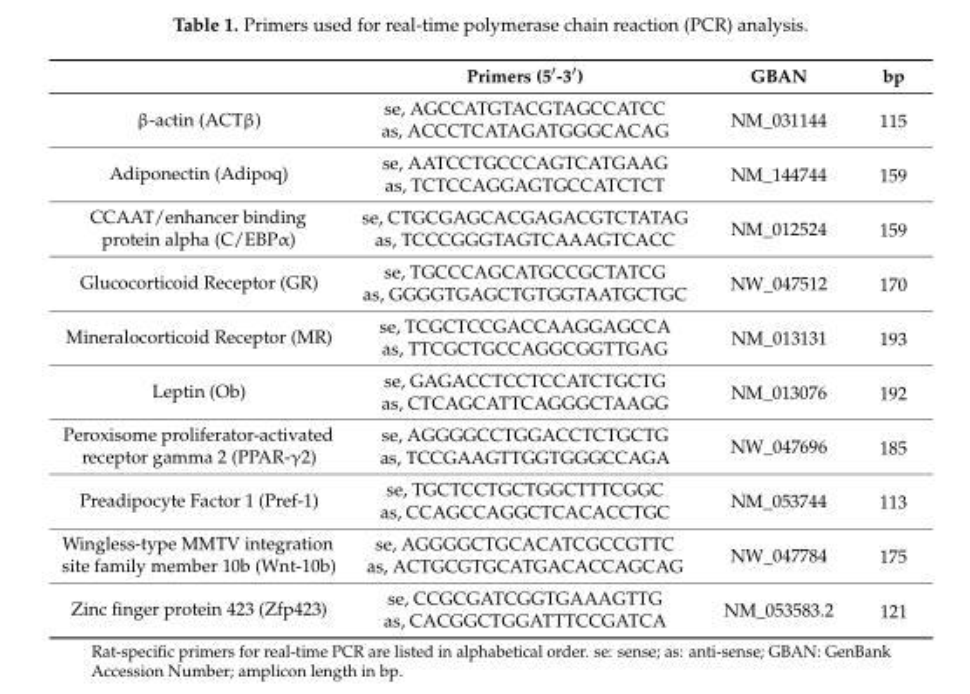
<table><thead><tr><td></td><td>Primers (5′-3′)</td><td>GBAN</td><td>bp</td></tr></thead><tbody><tr><td rowspan="2">β-actin (ACTβ)</td><td>se, AGCCATGTACGTAGCCATCC</td><td rowspan="2">NM_031144</td><td rowspan="2">115</td></tr><tr><td>as, ACCCTCATAGATGGGCACAG</td></tr><tr><td rowspan="2">Adiponectin (Adipoq)</td><td>se, AATCCTGCCCAGTCATGAAG</td><td rowspan="2">NM_144744</td><td rowspan="2">159</td></tr><tr><td>as, TCTCCAGGAGTGCCATCTCT</td></tr><tr><td rowspan="2">CCAAT/enhancer binding protein alpha (C/EBPα)</td><td>se, CTGCGAGCACGAGACGTCTATAG</td><td rowspan="2">NM_012524</td><td rowspan="2">159</td></tr><tr><td>as, TCCCGGGTAGTCAAAGTCACC</td></tr><tr><td rowspan="2">Glucocorticoid Receptor (GR)</td><td>se, TGCCCAGCATGCCGCTATCG</td><td rowspan="2">NW_047512</td><td rowspan="2">170</td></tr><tr><td>as, GGGGTGAGCTGTGGTAATGCTGC</td></tr><tr><td rowspan="2">Mineralocorticoid Receptor (MR)</td><td>se, TCGCTCCGACCAAGGAGCCA</td><td rowspan="2">NM_013131</td><td rowspan="2">193</td></tr><tr><td>as, TTCGCTGCCAGGCGGTTGAG</td></tr><tr><td rowspan="2">Leptin (Ob)</td><td>se, GAGACCTCCTCCATCTGCTG</td><td rowspan="2">NM_013076</td><td rowspan="2">192</td></tr><tr><td>as, CTCAGCATTCAGGGCTAAGG</td></tr><tr><td rowspan="2">Peroxisome proliferator-activated receptor gamma 2 (PPAR-γ2)</td><td>se, AGGGGCCTGGACCTCTGCTG</td><td rowspan="2">NW_047696</td><td rowspan="2">185</td></tr><tr><td>as, TCCGAAGTTGGTGGGCCAGA</td></tr><tr><td rowspan="2">Preadipocyte Factor 1 (Pref-1)</td><td>se, TGCTCCTGCTGGCTTTCGGC</td><td rowspan="2">NM_053744</td><td rowspan="2">113</td></tr><tr><td>as, CCAGCCAGGCTCACACCTGC</td></tr><tr><td rowspan="2">Wingless-type MMTV integration site family member 10b (Wnt-10b)</td><td>se, AGGGGCTGCACATCGCCGTTC</td><td rowspan="2">NW_047784</td><td rowspan="2">175</td></tr><tr><td>as, ACTGCGTGCATGACACCAGCAG</td></tr><tr><td rowspan="2">Zinc finger protein 423 (Zfp423)</td><td>se, CCGCGATCGGTGAAAGTTG</td><td rowspan="2">NM_053583.2</td><td rowspan="2">121</td></tr><tr><td>as, CACGGCTGGATTTCCGATCA</td></tr></tbody></table>